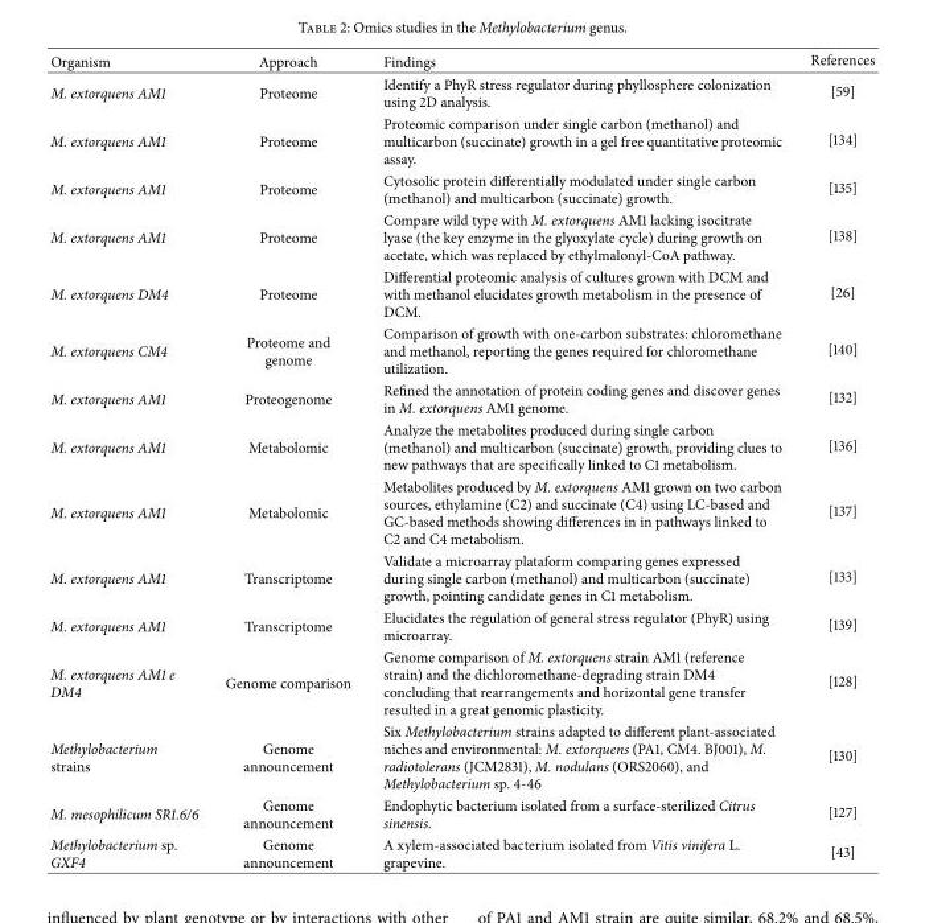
<table><thead><tr><td>Organism</td><td>Approach</td><td>Findings</td><td>References</td></tr></thead><tbody><tr><td>M. extorquens AM1</td><td>Proteome</td><td>Identify a PhyR stress regulator during phyllosphere colonization using 2D analysis.</td><td>[59]</td></tr><tr><td>M. extorquens AM1</td><td>Proteome</td><td>Proteomic comparison under single carbon (methanol) and multicarbon (succinate) growth in a gel free quantitative proteomic assay.</td><td>[134]</td></tr><tr><td>M. extorquens AM1</td><td>Proteome</td><td>Cytosolic protein differentially modulated under single carbon (methanol) and multicarbon (succinate) growth.</td><td>[135]</td></tr><tr><td>M. extorquens AM1</td><td>Proteome</td><td>Compare wild type with M. extorquens AM1 lacking isocitrate lyase (the key enzyme in the glyoxylate cycle) during growth on acetate, which was replaced by ethylmalonyl-CoA pathway.</td><td>[138]</td></tr><tr><td>M. extorquens DM4</td><td>Proteome</td><td>Differential proteomic analysis of cultures grown with DCM and with methanol elucidates growth metabolism in the presence of DCM.</td><td>[26]</td></tr><tr><td>M. extorquens CM4</td><td>Proteome and genome</td><td>Comparison of growth with one-carbon substrates: chloromethane and methanol, reporting the genes required for chloromethane utilization.</td><td>[140]</td></tr><tr><td>M. extorquens AM1</td><td>Proteogenome</td><td>Refined the annotation of protein coding genes and discover genes in M. extorquens AM1 genome.</td><td>[132]</td></tr><tr><td>M. extorquens AM1</td><td>Metabolomic</td><td>Analyze the metabolites produced during single carbon (methanol) and multicarbon (succinate) growth, providing clues to new pathways that are specifically linked to C1 metabolism.</td><td>[136]</td></tr><tr><td>M. extorquens AM1</td><td>Metabolomic</td><td>Metabolites produced by M. extorquens AM1 grown on two carbon sources, ethylamine (C2) and succinate (C4) using LC-based and GC-based methods showing differences in in pathways linked to C2 and C4 metabolism.</td><td>[137]</td></tr><tr><td>M. extorquens AM1</td><td>Transcriptome</td><td>Validate a microarray plataform comparing genes expressed during single carbon (methanol) and multicarbon (succinate) growth, pointing candidate genes in C1 metabolism.</td><td>[133]</td></tr><tr><td>M. extorquens AM1</td><td>Transcriptome</td><td>Elucidates the regulation of general stress regulator (PhyR) using microarray.</td><td>[139]</td></tr><tr><td>M. extorquens AM1 e DM4</td><td>Genome comparison</td><td>Genome comparison of M. extorquens strain AM1 (reference strain) and the dichloromethane-degrading strain DM4 concluding that rearrangements and horizontal gene transfer resulted in a great genomic plasticity.</td><td>[128]</td></tr><tr><td>Methylobacterium strains</td><td>Genome announcement</td><td>Six Methylobacterium strains adapted to different plant-associated niches and environmental: M. extorquens (PA1, CM4. BJ001), M. radiotolerans (JCM2831), M. nodulans (ORS2060), and Methylobacterium sp. 4-46</td><td>[130]</td></tr><tr><td>M. mesophilicum SR1.6/6</td><td>Genome announcement</td><td>Endophytic bacterium isolated from a surface-sterilized Citrus sinensis.</td><td>[127]</td></tr><tr><td>Methylobacterium sp. GXF4</td><td>Genome announcement</td><td>A xylem-associated bacterium isolated from Vitis vinifera L. grapevine.</td><td>[43]</td></tr></tbody></table>